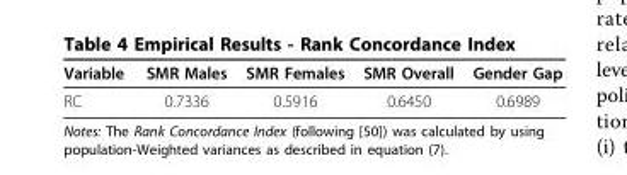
<table><thead><tr><td>Variable</td><td>SMR Males</td><td>SMR Females</td><td>SMR Overall</td><td>Gender Gap</td></tr></thead><tbody><tr><td>RC</td><td>0.7336</td><td>0.5916</td><td>0.6450</td><td>0.6989</td></tr></tbody></table>